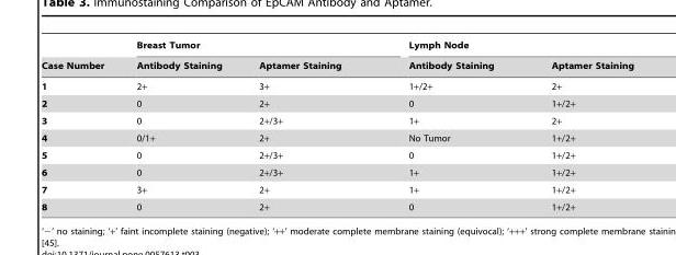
<table><thead><tr><td rowspan="2">Case Number</td><td colspan="2">Breast Tumor</td><td colspan="2">Lymph Node</td></tr><tr><td>Antibody Staining</td><td>Aptamer Staining</td><td>Antibody Staining</td><td>Aptamer Staining</td></tr></thead><tbody><tr><td>1</td><td>2+</td><td>3+</td><td>1+/2+</td><td>2+</td></tr><tr><td>2</td><td>0</td><td>2+</td><td>0</td><td>1+/2+</td></tr><tr><td>3</td><td>0</td><td>2+/3+</td><td>1+</td><td>2+</td></tr><tr><td>4</td><td>0/1+</td><td>2+</td><td>No Tumor</td><td>1+/2+</td></tr><tr><td>5</td><td>0</td><td>2+/3+</td><td>0</td><td>1+/2+</td></tr><tr><td>6</td><td>0</td><td>2+/3+</td><td>1+</td><td>1+/2+</td></tr><tr><td>7</td><td>3+</td><td>2+</td><td>1+</td><td>1+/2+</td></tr><tr><td>8</td><td>0</td><td>2+</td><td>0</td><td>1+/2+</td></tr></tbody></table>